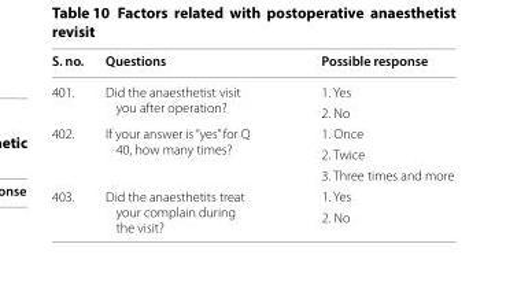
<table><thead><tr><td>S. no.</td><td>Questions</td><td>Possible response</td></tr></thead><tbody><tr><td rowspan="2">401.</td><td rowspan="2">Did the anaesthetist visit you after operation?</td><td>1. Yes</td></tr><tr><td>2. No</td></tr><tr><td rowspan="3">402.</td><td rowspan="3">If your answer is “yes” for Q 40, how many times?</td><td>1. Once</td></tr><tr><td>2. Twice</td></tr><tr><td>3. Three times and more</td></tr><tr><td rowspan="2">403.</td><td rowspan="2">Did the anaesthetits treat your complain during the visit?</td><td>1. Yes</td></tr><tr><td>2. No</td></tr></tbody></table>